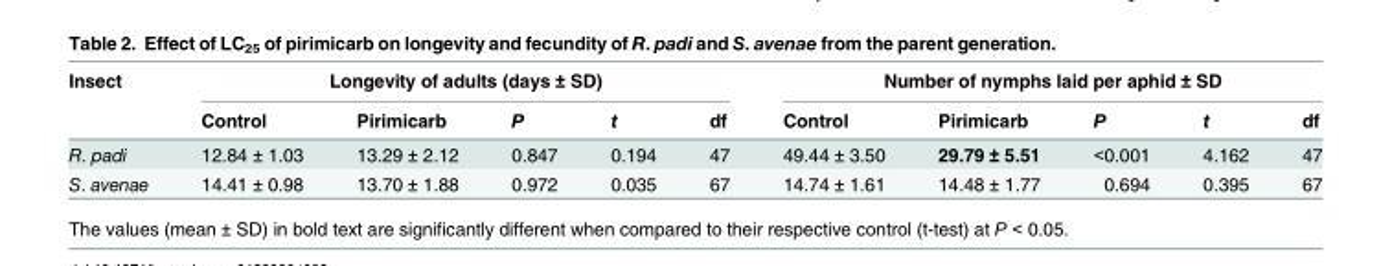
<table><thead><tr><td rowspan="2">Insect</td><td colspan="5">Longevity of adults (days ± SD)</td><td colspan="5">Number of nymphs laid per aphid ± SD</td></tr><tr><td>Control</td><td>Pirimicarb</td><td>P</td><td>t</td><td>df</td><td>Control</td><td>Pirimicarb</td><td>P</td><td>t</td><td>df</td></tr></thead><tbody><tr><td>R. padi</td><td>12.84 ± 1.03</td><td>13.29 ± 2.12</td><td>0.847</td><td>0.194</td><td>47</td><td>49.44 ± 3.50</td><td>29.79 ± 5.51</td><td>&lt;0.001</td><td>4.162</td><td>47</td></tr><tr><td>S. avenae</td><td>14.41 ± 0.98</td><td>13.70 ± 1.88</td><td>0.972</td><td>0.035</td><td>67</td><td>14.74 ± 1.61</td><td>14.48 ± 1.77</td><td>0.694</td><td>0.395</td><td>67</td></tr></tbody></table>